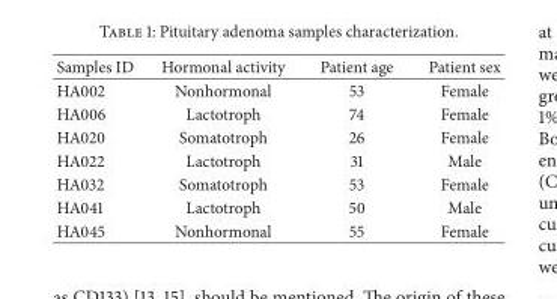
<table><thead><tr><td>Samples ID</td><td>Hormonal activity</td><td>Patient age</td><td>Patient sex</td></tr></thead><tbody><tr><td>HA002</td><td>Nonhormonal</td><td>53</td><td>Female</td></tr><tr><td>HA006</td><td>Lactotroph</td><td>74</td><td>Female</td></tr><tr><td>HA020</td><td>Somatotroph</td><td>26</td><td>Female</td></tr><tr><td>HA022</td><td>Lactotroph</td><td>31</td><td>Male</td></tr><tr><td>HA032</td><td>Somatotroph</td><td>53</td><td>Female</td></tr><tr><td>HA041</td><td>Lactotroph</td><td>50</td><td>Male</td></tr><tr><td>HA045</td><td>Nonhormonal</td><td>55</td><td>Female</td></tr></tbody></table>